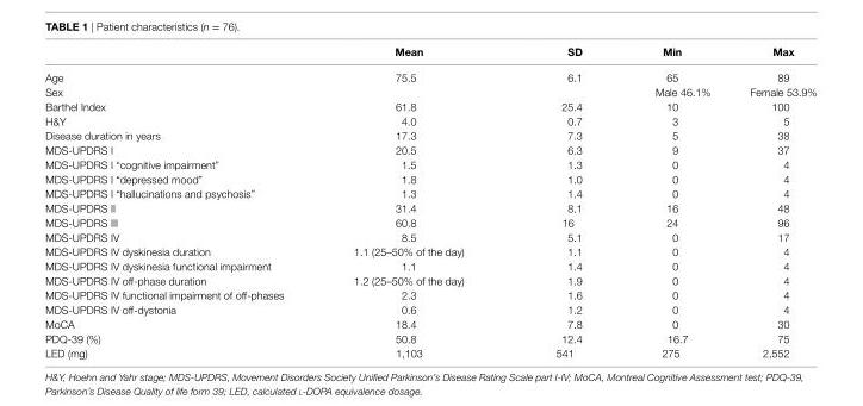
<table><thead><tr><td></td><td>Mean</td><td>sD</td><td>Min</td><td>Max</td></tr></thead><tbody><tr><td>Age</td><td>75.5</td><td>6.1</td><td>65</td><td>89</td></tr><tr><td>Sex</td><td></td><td></td><td>Male 46.1%</td><td>Female 53.9%</td></tr><tr><td>Barthel Index</td><td>61.8</td><td>25.4</td><td>10</td><td>100</td></tr><tr><td>H&amp;Y</td><td>4.0</td><td>0.7</td><td>3</td><td>5</td></tr><tr><td>Disease duration in years</td><td>17.3</td><td>7.3</td><td>5</td><td>38</td></tr><tr><td>MDS-UPDRS I</td><td>20.5</td><td>6.3</td><td>9</td><td>37</td></tr><tr><td>MDS-UPDRS I “cognitive impairment”</td><td>1.5</td><td>1.3</td><td>0</td><td>4</td></tr><tr><td>MDS-UPDRS I “depressed mood”</td><td>1.8</td><td>1.0</td><td>0</td><td>4</td></tr><tr><td>MDS-UPDRS I “hallucinations and psychosis”</td><td>1.3</td><td>1.4</td><td>0</td><td>4</td></tr><tr><td>MDS-UPDRS II</td><td>31.4</td><td>8.1</td><td>16</td><td>48</td></tr><tr><td>MDS-UPDRS III</td><td>60.8</td><td>16</td><td>24</td><td>96</td></tr><tr><td>MDS-UPDRS IV</td><td>8.5</td><td>5.1</td><td>0</td><td>17</td></tr><tr><td>MDS-UPDRS IV dyskinesia duration</td><td>1.1 (25–50% of the day)</td><td>1.1</td><td>0</td><td>4</td></tr><tr><td>MDS-UPDRS IV dyskinesia functional impairment</td><td>1.1</td><td>1.4</td><td>0</td><td>4</td></tr><tr><td>MDS-UPDRS IV off-phase duration</td><td>1.2 (25–50% of the day)</td><td>1.9</td><td>0</td><td>4</td></tr><tr><td>MDS-UPDRS IV functional impairment of off-phases</td><td>2.3</td><td>1.6</td><td>0</td><td>4</td></tr><tr><td>MDS-UPDRS IV off-dystonia</td><td>0.6</td><td>1.2</td><td>0</td><td>4</td></tr><tr><td>MoCA</td><td>18.4</td><td>7.8</td><td>0</td><td>30</td></tr><tr><td>PDQ-39 (%)</td><td>50.8</td><td>12.4</td><td>16.7</td><td>75</td></tr><tr><td>LED (mg)</td><td>1,103</td><td>541</td><td>275</td><td>2,552</td></tr></tbody></table>